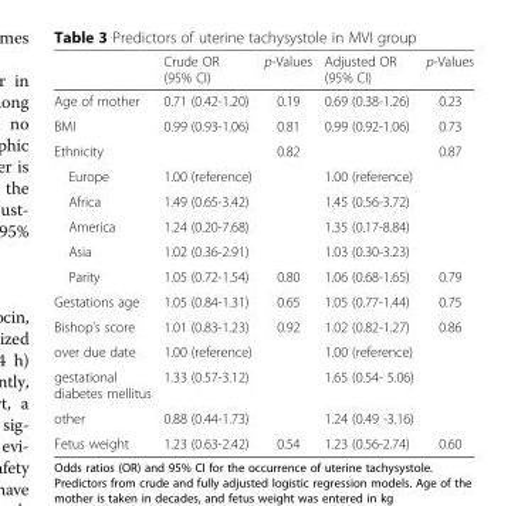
<table><thead><tr><td></td><td>Crude OR (95% CI)</td><td>p-Values</td><td>Adjusted OR (95% CI)</td><td>p-Values</td></tr></thead><tbody><tr><td>Age of mother</td><td>0.71 (0.42-1.20)</td><td>0.19</td><td>0.69 (0.38-1.26)</td><td>0.23</td></tr><tr><td>BMI</td><td>0.99 (0.93-1.06)</td><td>0.81</td><td>0.99 (0.92-1.06)</td><td>0.73</td></tr><tr><td>Ethnicity</td><td></td><td>0.82</td><td></td><td>0.87</td></tr><tr><td>Europe</td><td>1.00 (reference)</td><td></td><td>1.00 (reference)</td><td></td></tr><tr><td>Africa</td><td>1.49 (0.65-3.42)</td><td></td><td>1.45 (0.56-3.72)</td><td></td></tr><tr><td>America</td><td>1.24 (0.20-7.68)</td><td></td><td>1.35 (0.17-8.84)</td><td></td></tr><tr><td>Asia</td><td>1.02 (0.36-2.91)</td><td></td><td>1.03 (0.30-3.23)</td><td></td></tr><tr><td>Parity</td><td>1.05 (0.72-1.54)</td><td>0.80</td><td>1.06 (0.68-1.65)</td><td>0.79</td></tr><tr><td>Gestations age</td><td>1.05 (0.84-1.31)</td><td>0.65</td><td>1.05 (0.77-1.44)</td><td>0.75</td></tr><tr><td>Bishop’s score</td><td>1.01 (0.83-1.23)</td><td>0.92</td><td>1.02 (0.82-1.27)</td><td>0.86</td></tr><tr><td>over due date</td><td>1.00 (reference)</td><td></td><td>1.00 (reference)</td><td></td></tr><tr><td>gestational diabetes mellitus</td><td>1.33 (0.57-3.12)</td><td></td><td>1.65 (0.54- 5.06)</td><td></td></tr><tr><td>other</td><td>0.88 (0.44-1.73)</td><td></td><td>1.24 (0.49 -3.16)</td><td></td></tr><tr><td>Fetus weight</td><td>1.23 (0.63-2.42)</td><td>0.54</td><td>1.23 (0.56-2.74)</td><td>0.60</td></tr></tbody></table>